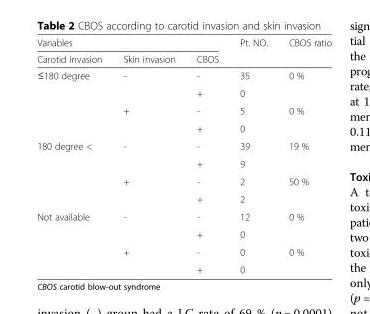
<table><thead><tr><td colspan="3">Variables</td><td rowspan="2">Pt. NO.</td><td rowspan="2">CBOS ratio</td></tr><tr><td>Carotid invasion</td><td>Skin invasion</td><td>CBOS</td></tr></thead><tbody><tr><td rowspan="4">≤180 degree</td><td>-</td><td>-</td><td>35</td><td>0 %</td></tr><tr><td></td><td>+</td><td>0</td><td></td></tr><tr><td>+</td><td>-</td><td>5</td><td>0 %</td></tr><tr><td></td><td>+</td><td>0</td><td></td></tr><tr><td rowspan="4">180 degree &lt;</td><td>-</td><td>-</td><td>39</td><td>19 %</td></tr><tr><td></td><td>+</td><td>9</td><td></td></tr><tr><td>+</td><td>-</td><td>2</td><td>50 %</td></tr><tr><td></td><td>+</td><td>2</td><td></td></tr><tr><td rowspan="4">Not available</td><td>-</td><td>-</td><td>12</td><td>0 %</td></tr><tr><td></td><td>+</td><td>0</td><td></td></tr><tr><td>+</td><td>-</td><td>0</td><td>0 %</td></tr><tr><td></td><td>+</td><td>0</td><td></td></tr></tbody></table>